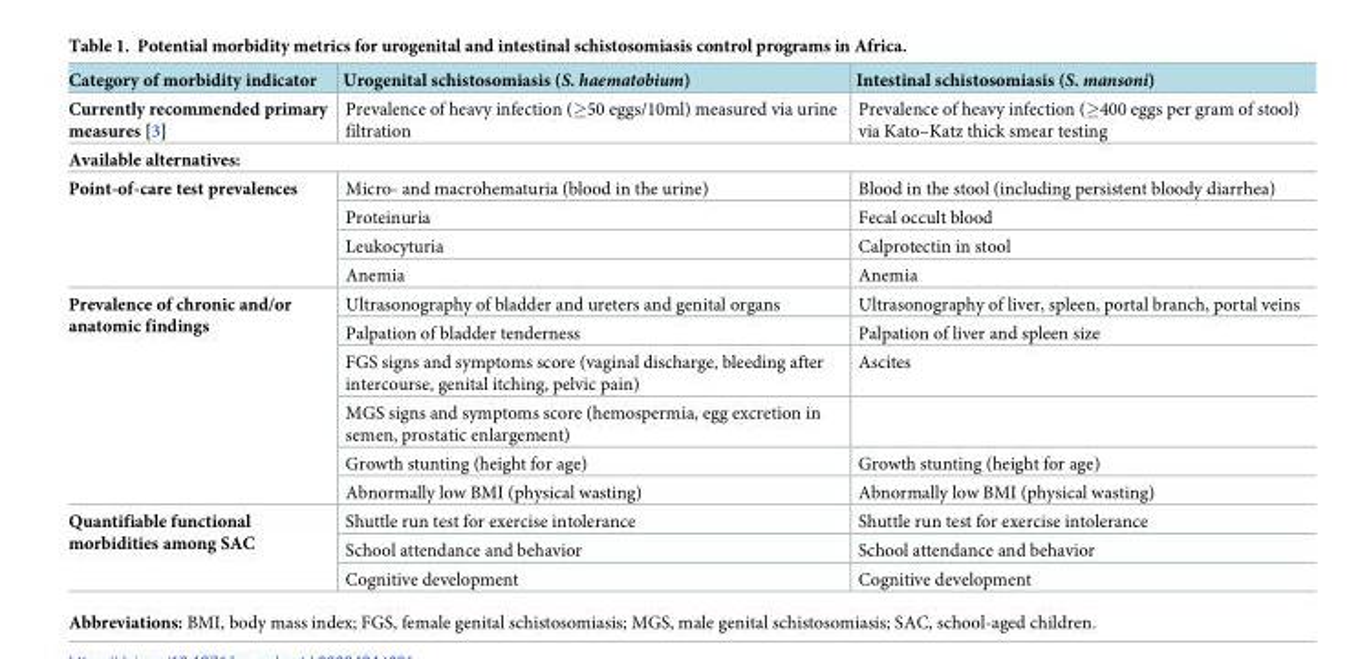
<table><thead><tr><td>Category of morbidity indicator</td><td>Urogenital schistosomiasis (S. haematobium)</td><td>Intestinal schistosomiasis (S. mansoni)</td></tr></thead><tbody><tr><td>Currently recommended primary measures [3]</td><td>Prevalence of heavy infection (≥50 eggs/10ml) measured via urine filtration</td><td>Prevalence of heavy infection (≥400 eggs per gram of stool) via Kato–Katz thick smear testing</td></tr><tr><td colspan="3">Available alternatives:</td></tr><tr><td rowspan="4">Point-of-care test prevalences</td><td>Micro- and macrohematuria (blood in the urine)</td><td>Blood in the stool (including persistent bloody diarrhea)</td></tr><tr><td>Proteinuria</td><td>Fecal occult blood</td></tr><tr><td>Leukocyturia</td><td>Calprotectin in stool</td></tr><tr><td>Anemia</td><td>Anemia</td></tr><tr><td rowspan="6">Prevalence of chronic and/or anatomic findings</td><td>Ultrasonography of bladder and ureters and genital organs</td><td>Ultrasonography of liver, spleen, portal branch, portal veins</td></tr><tr><td>Palpation of bladder tenderness</td><td>Palpation of liver and spleen size</td></tr><tr><td>FGS signs and symptoms score (vaginal discharge, bleeding after intercourse, genital itching, pelvic pain)</td><td>Ascites</td></tr><tr><td>MGS signs and symptoms score (hemospermia, egg excretion in semen, prostatic enlargement)</td><td></td></tr><tr><td>Growth stunting (height for age)</td><td>Growth stunting (height for age)</td></tr><tr><td>Abnormally low BMI (physical wasting)</td><td>Abnormally low BMI (physical wasting)</td></tr><tr><td rowspan="3">Quantifiable functional morbidities among SAC</td><td>Shuttle run test for exercise intolerance</td><td>Shuttle run test for exercise intolerance</td></tr><tr><td>School attendance and behavior</td><td>School attendance and behavior</td></tr><tr><td>Cognitive development</td><td>Cognitive development</td></tr></tbody></table>